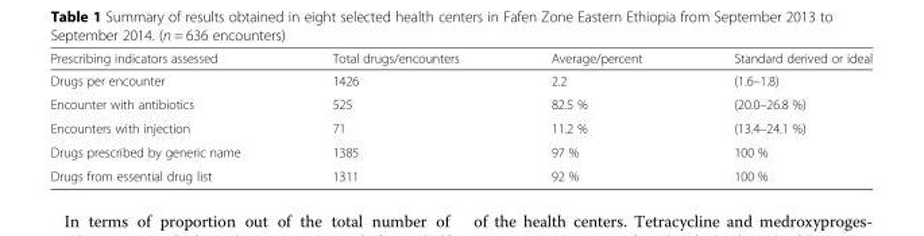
<table><thead><tr><td>Prescribing indicators assessed</td><td>Total drugs/encounters</td><td>Average/percent</td><td>Standard derived or ideal</td></tr></thead><tbody><tr><td>Drugs per encounter</td><td>1426</td><td>2.2</td><td>(1.6–1.8)</td></tr><tr><td>Encounter with antibiotics</td><td>525</td><td>82.5 %</td><td>(20.0–26.8 %)</td></tr><tr><td>Encounters with injection</td><td>71</td><td>11.2 %</td><td>(13.4–24.1 %)</td></tr><tr><td>Drugs prescribed by generic name</td><td>1385</td><td>97 %</td><td>100 %</td></tr><tr><td>Drugs from essential drug list</td><td>1311</td><td>92 %</td><td>100 %</td></tr></tbody></table>